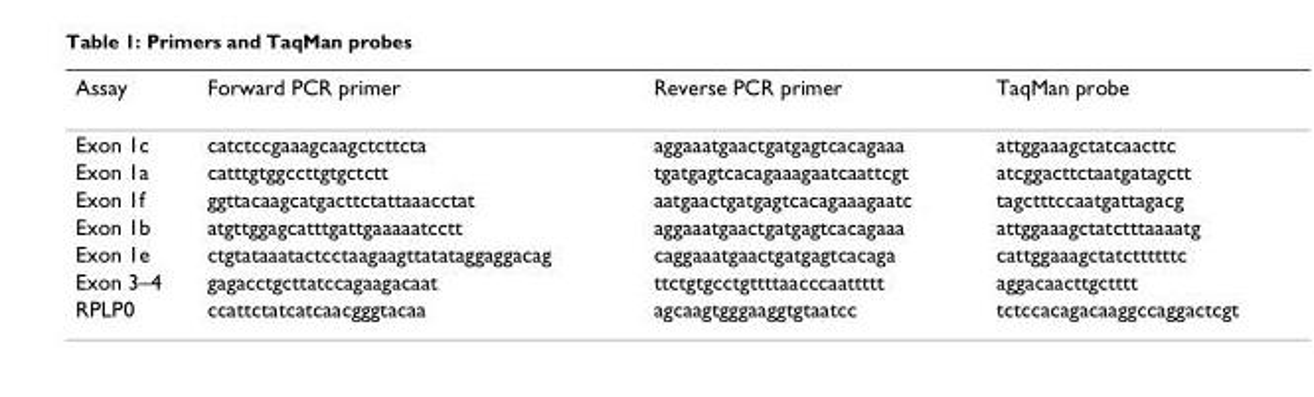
<table><thead><tr><td>Assay</td><td>Forward PCR primer</td><td>Reverse PCR primer</td><td>TaqMan probe</td></tr></thead><tbody><tr><td>Exon 1c</td><td>catctccgaaagcaagctcttcta</td><td>aggaaatgaactgatgagtcacagaaa</td><td>attggaaagctatcaacttc</td></tr><tr><td>Exon 1a</td><td>catttgtggccttgtgctctt</td><td>tgatgagtcacagaaagaatcaattcgt</td><td>atcggacttctaatgatagctt</td></tr><tr><td>Exon 1f</td><td>ggttacaagcatgacttctattaaacctat</td><td>aatgaactgatgagtcacagaaagaatc</td><td>tagctttccaatgattagacg</td></tr><tr><td>Exon 1b</td><td>atgttggagcatttgattgaaaaatcctt</td><td>aggaaatgaactgatgagtcacagaaa</td><td>attggaaagctatctttaaaatg</td></tr><tr><td>Exon 1e</td><td>ctgtataaatactcctaagaagttatataggaggacag</td><td>caggaaatgaactgatgagtcacaga</td><td>cattggaaagctatcttttttc</td></tr><tr><td>Exon 3–4</td><td>gagacctgcttatccagaagacaat</td><td>ttctgtgcctgttttaacccaattttt</td><td>aggacaacttgctttt</td></tr><tr><td>RPLP0</td><td>ccattctatcatcaacgggtacaa</td><td>agcaagtgggaaggtgtaatcc</td><td>tctccacagacaaggccaggactcgt</td></tr></tbody></table>